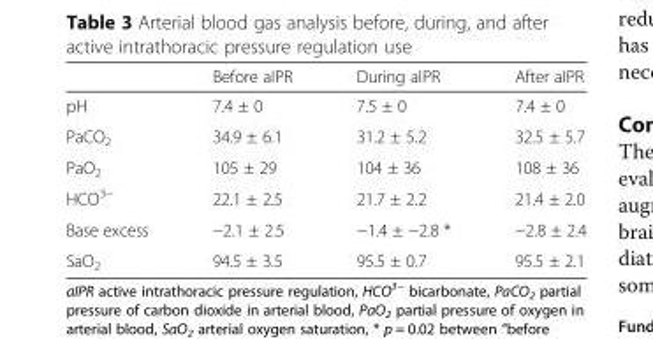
<table><thead><tr><td></td><td>Before aIPR</td><td>During aIPR</td><td>After aIPR</td></tr></thead><tbody><tr><td>pH</td><td>7.4 ± 0</td><td>7.5 ± 0</td><td>7.4 ± 0</td></tr><tr><td>PaCO<sub>2</sub></td><td>34.9 ± 6.1</td><td>31.2 ± 5.2</td><td>32.5 ± 5.7</td></tr><tr><td>PaO<sub>2</sub></td><td>105 ± 29</td><td>104 ± 36</td><td>108 ± 36</td></tr><tr><td>HCO<sup>3−</sup></td><td>22.1 ± 2.5</td><td>21.7 ± 2.2</td><td>21.4 ± 2.0</td></tr><tr><td>Base excess</td><td>−2.1 ± 2.5</td><td>−1.4 ± −2.8 *</td><td>−2.8 ± 2.4</td></tr><tr><td>SaO<sub>2</sub></td><td>94.5 ± 3.5</td><td>95.5 ± 0.7</td><td>95.5 ± 2.1</td></tr></tbody></table>